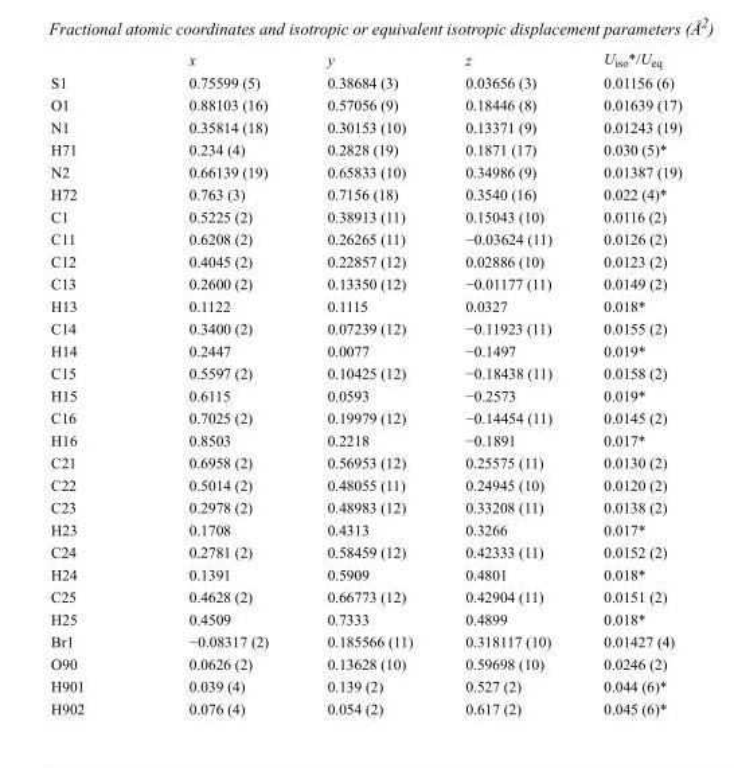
<table><thead><tr><td></td><td>x</td><td>y</td><td>z</td><td>U<sub>iso</sub>*/U<sub>eq</sub></td></tr></thead><tbody><tr><td>S1</td><td>0.75599 (5)</td><td>0.38684 (3)</td><td>0.03656 (3)</td><td>0.01156 (6)</td></tr><tr><td>O1</td><td>0.88103 (16)</td><td>0.57056 (9)</td><td>0.18446 (8)</td><td>0.01639 (17)</td></tr><tr><td>N1</td><td>0.35814 (18)</td><td>0.30153 (10)</td><td>0.13371 (9)</td><td>0.01243 (19)</td></tr><tr><td>H71</td><td>0.234 (4)</td><td>0.2828 (19)</td><td>0.1871 (17)</td><td>0.030 (5)*</td></tr><tr><td>N2</td><td>0.66139 (19)</td><td>0.65833 (10)</td><td>0.34986 (9)</td><td>0.01387 (19)</td></tr><tr><td>H72</td><td>0.763 (3)</td><td>0.7156 (18)</td><td>0.3540 (16)</td><td>0.022 (4)*</td></tr><tr><td>C1</td><td>0.5225 (2)</td><td>0.38913 (11)</td><td>0.15043 (10)</td><td>0.0116 (2)</td></tr><tr><td>C11</td><td>0.6208 (2)</td><td>0.26265 (11)</td><td>−0.03624 (11)</td><td>0.0126 (2)</td></tr><tr><td>C12</td><td>0.4045 (2)</td><td>0.22857 (12)</td><td>0.02886 (10)</td><td>0.0123 (2)</td></tr><tr><td>C13</td><td>0.2600 (2)</td><td>0.13350 (12)</td><td>−0.01177 (11)</td><td>0.0149 (2)</td></tr><tr><td>H13</td><td>0.1122</td><td>0.1115</td><td>0.0327</td><td>0.018*</td></tr><tr><td>C14</td><td>0.3400 (2)</td><td>0.07239 (12)</td><td>−0.11923 (11)</td><td>0.0155 (2)</td></tr><tr><td>H14</td><td>0.2447</td><td>0.0077</td><td>−0.1497</td><td>0.019*</td></tr><tr><td>C15</td><td>0.5597 (2)</td><td>0.10425 (12)</td><td>−0.18438 (11)</td><td>0.0158 (2)</td></tr><tr><td>H15</td><td>0.6115</td><td>0.0593</td><td>−0.2573</td><td>0.019*</td></tr><tr><td>C16</td><td>0.7025 (2)</td><td>0.19979 (12)</td><td>−0.14454 (11)</td><td>0.0145 (2)</td></tr><tr><td>H16</td><td>0.8503</td><td>0.2218</td><td>−0.1891</td><td>0.017*</td></tr><tr><td>C21</td><td>0.6958 (2)</td><td>0.56953 (12)</td><td>0.25575 (11)</td><td>0.0130 (2)</td></tr><tr><td>C22</td><td>0.5014 (2)</td><td>0.48055 (11)</td><td>0.24945 (10)</td><td>0.0120 (2)</td></tr><tr><td>C23</td><td>0.2978 (2)</td><td>0.48983 (12)</td><td>0.33208 (11)</td><td>0.0138 (2)</td></tr><tr><td>H23</td><td>0.1708</td><td>0.4313</td><td>0.3266</td><td>0.017*</td></tr><tr><td>C24</td><td>0.2781 (2)</td><td>0.58459 (12)</td><td>0.42333 (11)</td><td>0.0152 (2)</td></tr><tr><td>H24</td><td>0.1391</td><td>0.5909</td><td>0.4801</td><td>0.018*</td></tr><tr><td>C25</td><td>0.4628 (2)</td><td>0.66773 (12)</td><td>0.42904 (11)</td><td>0.0151 (2)</td></tr><tr><td>H25</td><td>0.4509</td><td>0.7333</td><td>0.4899</td><td>0.018*</td></tr><tr><td>Br1</td><td>−0.08317 (2)</td><td>0.185566 (11)</td><td>0.318117 (10)</td><td>0.01427 (4)</td></tr><tr><td>O90</td><td>0.0626 (2)</td><td>0.13628 (10)</td><td>0.59698 (10)</td><td>0.0246 (2)</td></tr><tr><td>H901</td><td>0.039 (4)</td><td>0.139 (2)</td><td>0.527 (2)</td><td>0.044 (6)*</td></tr><tr><td>H902</td><td>0.076 (4)</td><td>0.054 (2)</td><td>0.617 (2)</td><td>0.045 (6)*</td></tr></tbody></table>